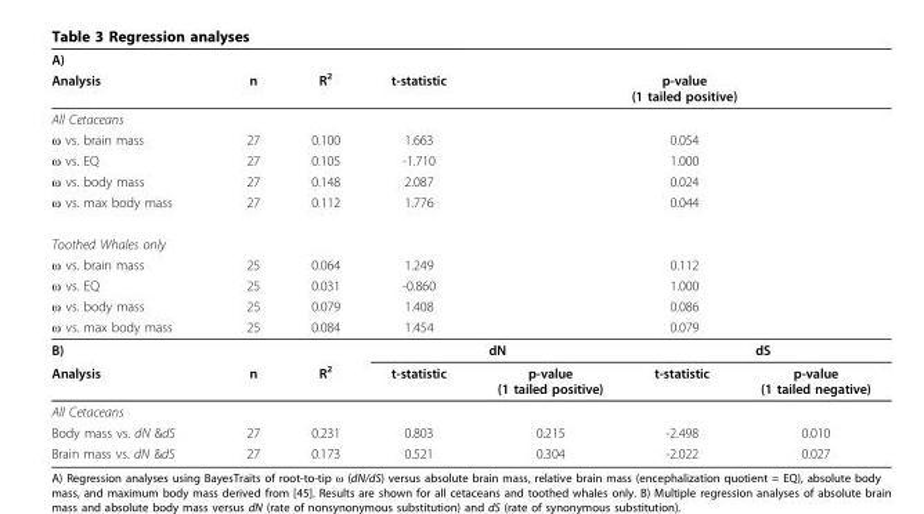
<table><thead><tr><td rowspan="2">A) Analysis</td><td rowspan="2">n</td><td rowspan="2">R<sup>2</sup></td><td rowspan="2">t-statistic</td><td></td><td></td><td></td></tr><tr><td colspan="3">p-value (1 tailed positive)</td></tr></thead><tbody><tr><td colspan="7">All Cetaceans</td></tr><tr><td>ω vs. brain mass</td><td>27</td><td>0.100</td><td>1.663</td><td colspan="3">0.054</td></tr><tr><td>ω vs. EQ</td><td>27</td><td>0.105</td><td>-1.710</td><td colspan="3">1.000</td></tr><tr><td>ω vs. body mass</td><td>27</td><td>0.148</td><td>2.087</td><td colspan="3">0.024</td></tr><tr><td>ω vs. max body mass</td><td>27</td><td>0.112</td><td>1.776</td><td colspan="3">0.044</td></tr><tr><td colspan="7">Toothed Whales only</td></tr><tr><td>ω vs. brain mass</td><td>25</td><td>0.064</td><td>1.249</td><td colspan="3">0.112</td></tr><tr><td>ω vs. EQ</td><td>25</td><td>0.031</td><td>-0.860</td><td colspan="3">1.000</td></tr><tr><td>ω vs. body mass</td><td>25</td><td>0.079</td><td>1.408</td><td colspan="3">0.086</td></tr><tr><td>ω vs. max body mass</td><td>25</td><td>0.084</td><td>1.454</td><td colspan="3">0.079</td></tr><tr><td>B)</td><td></td><td></td><td colspan="2">dN</td><td colspan="2">dS</td></tr><tr><td>Analysis</td><td>n</td><td>R<sup>2</sup></td><td>t-statistic</td><td>p-value (1 tailed positive)</td><td>t-statistic</td><td>p-value (1 tailed negative)</td></tr><tr><td colspan="7">All Cetaceans</td></tr><tr><td>Body mass vs. dN &amp;dS</td><td>27</td><td>0.231</td><td>0.803</td><td>0.215</td><td>-2.498</td><td>0.010</td></tr><tr><td>Brain mass vs. dN &amp;dS</td><td>27</td><td>0.173</td><td>0.521</td><td>0.304</td><td>-2.022</td><td>0.027</td></tr></tbody></table>